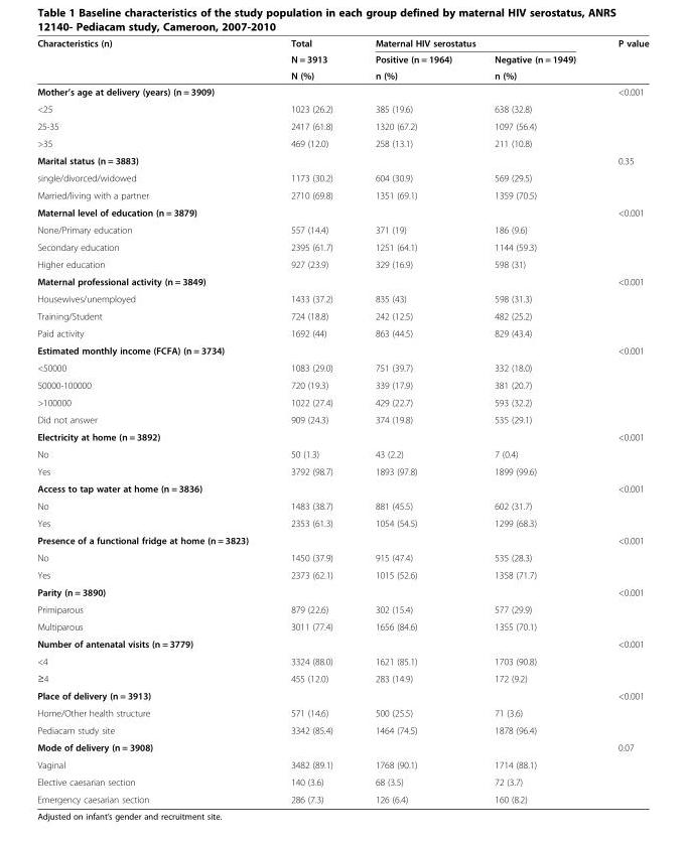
<table><thead><tr><td rowspan="3">Characteristics (n)</td><td rowspan="3">Total N = 3913 N (%)</td><td colspan="2">Maternal HIV serostatus</td><td rowspan="3">P value</td></tr><tr><td rowspan="2">Positive (n = 1964) n (%)</td><td rowspan="2">Negative (n = 1949) n (%)</td></tr><tr></tr></thead><tbody><tr><td>Mother’s age at delivery (years) (n = 3909)</td><td></td><td></td><td></td><td>&lt;0.001</td></tr><tr><td>&lt;25</td><td>1023 (26.2)</td><td>385 (19.6)</td><td>638 (32.8)</td><td></td></tr><tr><td>25-35</td><td>2417 (61.8)</td><td>1320 (67.2)</td><td>1097 (56.4)</td><td></td></tr><tr><td>&gt;35</td><td>469 (12.0)</td><td>258 (13.1)</td><td>211 (10.8)</td><td></td></tr><tr><td>Marital status (n = 3883)</td><td></td><td></td><td></td><td>0.35</td></tr><tr><td>single/divorced/widowed</td><td>1173 (30.2)</td><td>604 (30.9)</td><td>569 (29.5)</td><td></td></tr><tr><td>Married/living with a partner</td><td>2710 (69.8)</td><td>1351 (69.1)</td><td>1359 (70.5)</td><td></td></tr><tr><td>Maternal level of education (n = 3879)</td><td></td><td></td><td></td><td>&lt;0.001</td></tr><tr><td>None/Primary education</td><td>557 (14.4)</td><td>371 (19)</td><td>186 (9.6)</td><td></td></tr><tr><td>Secondary education</td><td>2395 (61.7)</td><td>1251 (64.1)</td><td>1144 (59.3)</td><td></td></tr><tr><td>Higher education</td><td>927 (23.9)</td><td>329 (16.9)</td><td>598 (31)</td><td></td></tr><tr><td>Maternal professional activity (n = 3849)</td><td></td><td></td><td></td><td>&lt;0.001</td></tr><tr><td>Housewives/unemployed</td><td>1433 (37.2)</td><td>835 (43)</td><td>598 (31.3)</td><td></td></tr><tr><td>Training/Student</td><td>724 (18.8)</td><td>242 (12.5)</td><td>482 (25.2)</td><td></td></tr><tr><td>Paid activity</td><td>1692 (44)</td><td>863 (44.5)</td><td>829 (43.4)</td><td></td></tr><tr><td>Estimated monthly income (FCFA) (n = 3734)</td><td></td><td></td><td></td><td>&lt;0.001</td></tr><tr><td>&lt;50000</td><td>1083 (29.0)</td><td>751 (39.7)</td><td>332 (18.0)</td><td></td></tr><tr><td>50000-100000</td><td>720 (19.3)</td><td>339 (17.9)</td><td>381 (20.7)</td><td></td></tr><tr><td>&gt;100000</td><td>1022 (27.4)</td><td>429 (22.7)</td><td>593 (32.2)</td><td></td></tr><tr><td>Did not answer</td><td>909 (24.3)</td><td>374 (19.8)</td><td>535 (29.1)</td><td></td></tr><tr><td>Electricity at home (n = 3892)</td><td></td><td></td><td></td><td>&lt;0.001</td></tr><tr><td>No</td><td>50 (1.3)</td><td>43 (2.2)</td><td>7 (0.4)</td><td></td></tr><tr><td>Yes</td><td>3792 (98.7)</td><td>1893 (97.8)</td><td>1899 (99.6)</td><td></td></tr><tr><td>Access to tap water at home (n = 3836)</td><td></td><td></td><td></td><td>&lt;0.001</td></tr><tr><td>No</td><td>1483 (38.7)</td><td>881 (45.5)</td><td>602 (31.7)</td><td></td></tr><tr><td>Yes</td><td>2353 (61.3)</td><td>1054 (54.5)</td><td>1299 (68.3)</td><td></td></tr><tr><td>Presence of a functional fridge at home (n = 3823)</td><td></td><td></td><td></td><td>&lt;0.001</td></tr><tr><td>No</td><td>1450 (37.9)</td><td>915 (47.4)</td><td>535 (28.3)</td><td></td></tr><tr><td>Yes</td><td>2373 (62.1)</td><td>1015 (52.6)</td><td>1358 (71.7)</td><td></td></tr><tr><td>Parity (n = 3890)</td><td></td><td></td><td></td><td>&lt;0.001</td></tr><tr><td>Primiparous</td><td>879 (22.6)</td><td>302 (15.4)</td><td>577 (29.9)</td><td></td></tr><tr><td>Multiparous</td><td>3011 (77.4)</td><td>1656 (84.6)</td><td>1355 (70.1)</td><td></td></tr><tr><td>Number of antenatal visits (n = 3779)</td><td></td><td></td><td></td><td>&lt;0.001</td></tr><tr><td>&lt;4</td><td>3324 (88.0)</td><td>1621 (85.1)</td><td>1703 (90.8)</td><td></td></tr><tr><td>≥4</td><td>455 (12.0)</td><td>283 (14.9)</td><td>172 (9.2)</td><td></td></tr><tr><td>Place of delivery (n = 3913)</td><td></td><td></td><td></td><td>&lt;0.001</td></tr><tr><td>Home/Other health structure</td><td>571 (14.6)</td><td>500 (25.5)</td><td>71 (3.6)</td><td></td></tr><tr><td>Pediacam study site</td><td>3342 (85.4)</td><td>1464 (74.5)</td><td>1878 (96.4)</td><td></td></tr><tr><td>Mode of delivery (n = 3908)</td><td></td><td></td><td></td><td>0.07</td></tr><tr><td>Vaginal</td><td>3482 (89.1)</td><td>1768 (90.1)</td><td>1714 (88.1)</td><td></td></tr><tr><td>Elective caesarian section</td><td>140 (3.6)</td><td>68 (3.5)</td><td>72 (3.7)</td><td></td></tr><tr><td>Emergency caesarian section</td><td>286 (7.3)</td><td>126 (6.4)</td><td>160 (8.2)</td><td></td></tr></tbody></table>